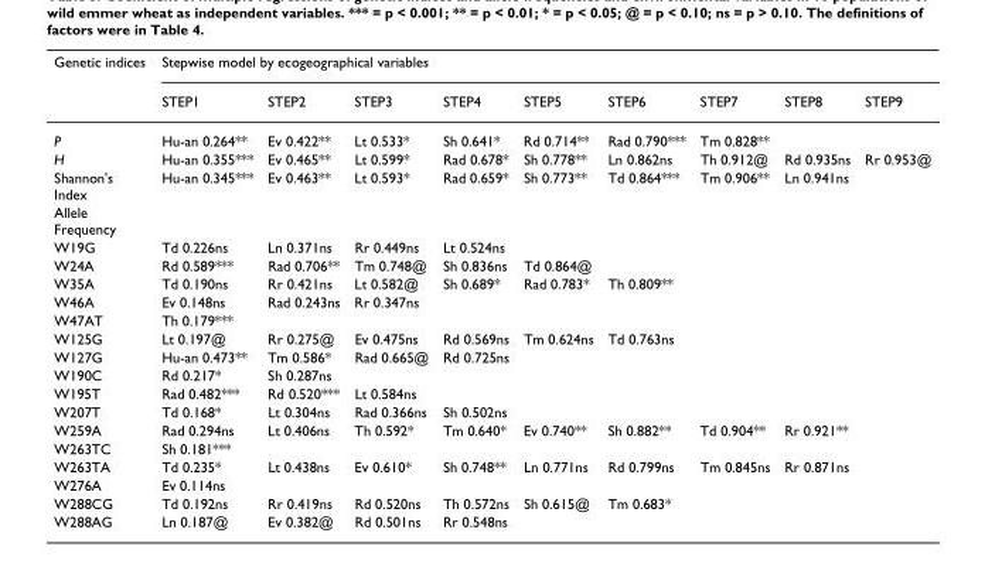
<table><thead><tr><td rowspan="2">Genetic indices</td><td colspan="9">Stepwise model by ecogeographical variables</td></tr><tr><td>STEP1</td><td>STEP2</td><td>STEP3</td><td>STEP4</td><td>STEP5</td><td>STEP6</td><td>STEP7</td><td>STEP8</td><td>STEP9</td></tr></thead><tbody><tr><td>P</td><td>Hu-an 0.264**</td><td>Ev 0.422**</td><td>Lt 0.533*</td><td>Sh 0.641*</td><td>Rd 0.714**</td><td>Rad 0.790***</td><td>Tm 0.828**</td><td></td><td></td></tr><tr><td>H</td><td>Hu-an 0.355***</td><td>Ev 0.465**</td><td>Lt 0.599*</td><td>Rad 0.678*</td><td>Sh 0.778**</td><td>Ln 0.862ns</td><td>Th 0.912@</td><td>Rd 0.935ns</td><td>Rr 0.953@</td></tr><tr><td>Shannon&#x27;s Index</td><td>Hu-an 0.345***</td><td>Ev 0.463**</td><td>Lt 0.593*</td><td>Rad 0.659*</td><td>Sh 0.773**</td><td>Td 0.864***</td><td>Tm 0.906**</td><td>Ln 0.941ns</td><td></td></tr><tr><td colspan="10">Allele Frequency</td></tr><tr><td>W19G</td><td>Td 0.226ns</td><td>Ln 0.371ns</td><td>Rr 0.449ns</td><td>Lt 0.524ns</td><td></td><td></td><td></td><td></td><td></td></tr><tr><td>W24A</td><td>Rd 0.589***</td><td>Rad 0.706**</td><td>Tm 0.748@</td><td>Sh 0.836ns</td><td>Td 0.864@</td><td></td><td></td><td></td><td></td></tr><tr><td>W35A</td><td>Td 0.190ns</td><td>Rr 0.421ns</td><td>Lt 0.582@</td><td>Sh 0.689*</td><td>Rad 0.783*</td><td>Th 0.809**</td><td></td><td></td><td></td></tr><tr><td>W46A</td><td>Ev 0.148ns</td><td>Rad 0.243ns</td><td>Rr 0.347ns</td><td></td><td></td><td></td><td></td><td></td><td></td></tr><tr><td>W47AT</td><td>Th 0.179***</td><td></td><td></td><td></td><td></td><td></td><td></td><td></td><td></td></tr><tr><td>W125G</td><td>Lt 0.197@</td><td>Rr 0.275@</td><td>Ev 0.475ns</td><td>Rd 0.569ns</td><td>Tm 0.624ns</td><td>Td 0.763ns</td><td></td><td></td><td></td></tr><tr><td>W127G</td><td>Hu-an 0.473**</td><td>Tm 0.586*</td><td>Rad 0.665@</td><td>Rd 0.725ns</td><td></td><td></td><td></td><td></td><td></td></tr><tr><td>W190C</td><td>Rd 0.217*</td><td>Sh 0.287ns</td><td></td><td></td><td></td><td></td><td></td><td></td><td></td></tr><tr><td>W195T</td><td>Rad 0.482***</td><td>Rd 0.520***</td><td>Lt 0.584ns</td><td></td><td></td><td></td><td></td><td></td><td></td></tr><tr><td>W207T</td><td>Td 0.168*</td><td>Lt 0.304ns</td><td>Rad 0.366ns</td><td>Sh 0.502ns</td><td></td><td></td><td></td><td></td><td></td></tr><tr><td>W259A</td><td>Rad 0.294ns</td><td>Lt 0.406ns</td><td>Th 0.592*</td><td>Tm 0.640*</td><td>Ev 0.740**</td><td>Sh 0.882**</td><td>Td 0.904**</td><td>Rr 0.921**</td><td></td></tr><tr><td>W263TC</td><td>Sh 0.181***</td><td></td><td></td><td></td><td></td><td></td><td></td><td></td><td></td></tr><tr><td>W263TA</td><td>Td 0.235*</td><td>Lt 0.438ns</td><td>Ev 0.610*</td><td>Sh 0.748**</td><td>Ln 0.771ns</td><td>Rd 0.799ns</td><td>Tm 0.845ns</td><td>Rr 0.871ns</td><td></td></tr><tr><td>W276A</td><td>Ev 0.114ns</td><td></td><td></td><td></td><td></td><td></td><td></td><td></td><td></td></tr><tr><td>W288CG</td><td>Td 0.192ns</td><td>Rr 0.419ns</td><td>Rd 0.520ns</td><td>Th 0.572ns</td><td>Sh 0.615@</td><td>Tm 0.683*</td><td></td><td></td><td></td></tr><tr><td>W288AG</td><td>Ln 0.187@</td><td>Ev 0.382@</td><td>Rd 0.501ns</td><td>Rr 0.548ns</td><td></td><td></td><td></td><td></td><td></td></tr></tbody></table>